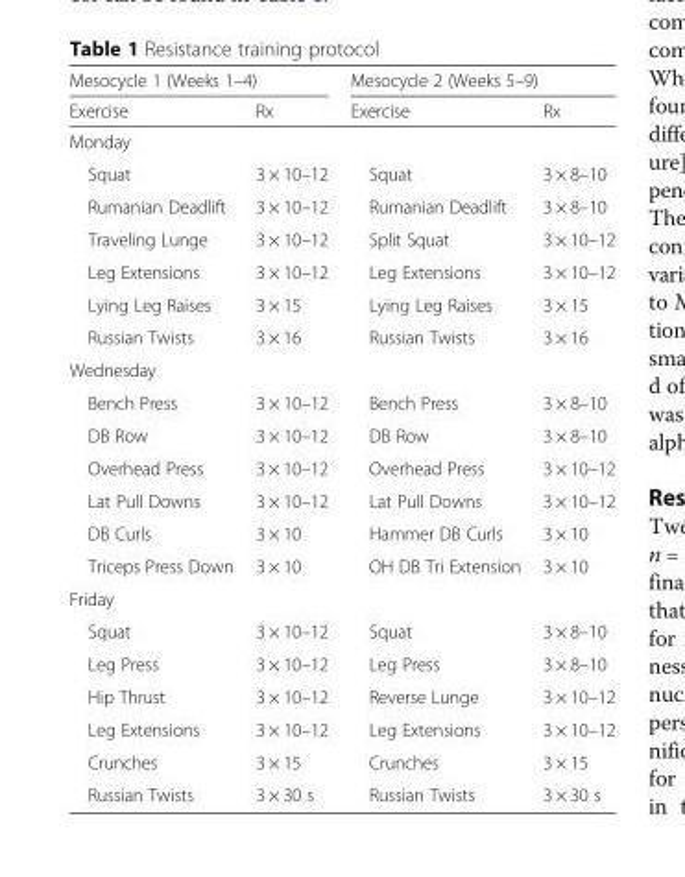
<table><thead><tr><td colspan="2">Mesocycle 1 (Weeks 1–4)</td><td colspan="2">Mesocycle 2 (Weeks 5–9)</td></tr><tr><td>Exercise</td><td>Rx</td><td>Exercise</td><td>Rx</td></tr></thead><tbody><tr><td colspan="4">Monday</td></tr><tr><td>Squat</td><td>3 × 10–12</td><td>Squat</td><td>3 × 8–10</td></tr><tr><td>Rumanian Deadlift</td><td>3 × 10–12</td><td>Rumanian Deadlift</td><td>3 × 8–10</td></tr><tr><td>Traveling Lunge</td><td>3 × 10–12</td><td>Split Squat</td><td>3 × 10–12</td></tr><tr><td>Leg Extensions</td><td>3 × 10–12</td><td>Leg Extensions</td><td>3 × 10–12</td></tr><tr><td>Lying Leg Raises</td><td>3 × 15</td><td>Lying Leg Raises</td><td>3 × 15</td></tr><tr><td>Russian Twists</td><td>3 × 16</td><td>Russian Twists</td><td>3 × 16</td></tr><tr><td colspan="4">Wednesday</td></tr><tr><td>Bench Press</td><td>3 × 10–12</td><td>Bench Press</td><td>3 × 8–10</td></tr><tr><td>DB Row</td><td>3 × 10–12</td><td>DB Row</td><td>3 × 8–10</td></tr><tr><td>Overhead Press</td><td>3 × 10–12</td><td>Overhead Press</td><td>3 × 10–12</td></tr><tr><td>Lat Pull Downs</td><td>3 × 10–12</td><td>Lat Pull Downs</td><td>3 × 10–12</td></tr><tr><td>DB Curls</td><td>3 × 10</td><td>Hammer DB Curls</td><td>3 × 10</td></tr><tr><td>Triceps Press Down</td><td>3 × 10</td><td>OH DB Tri Extension</td><td>3 × 10</td></tr><tr><td colspan="4">Friday</td></tr><tr><td>Squat</td><td>3 × 10–12</td><td>Squat</td><td>3 × 8–10</td></tr><tr><td>Leg Press</td><td>3 × 10–12</td><td>Leg Press</td><td>3 × 8–10</td></tr><tr><td>Hip Thrust</td><td>3 × 10–12</td><td>Reverse Lunge</td><td>3 × 10–12</td></tr><tr><td>Leg Extensions</td><td>3 × 10–12</td><td>Leg Extensions</td><td>3 × 10–12</td></tr><tr><td>Crunches</td><td>3 × 15</td><td>Crunches</td><td>3 × 15</td></tr><tr><td>Russian Twists</td><td>3 × 30 s</td><td>Russian Twists</td><td>3 × 30 s</td></tr></tbody></table>